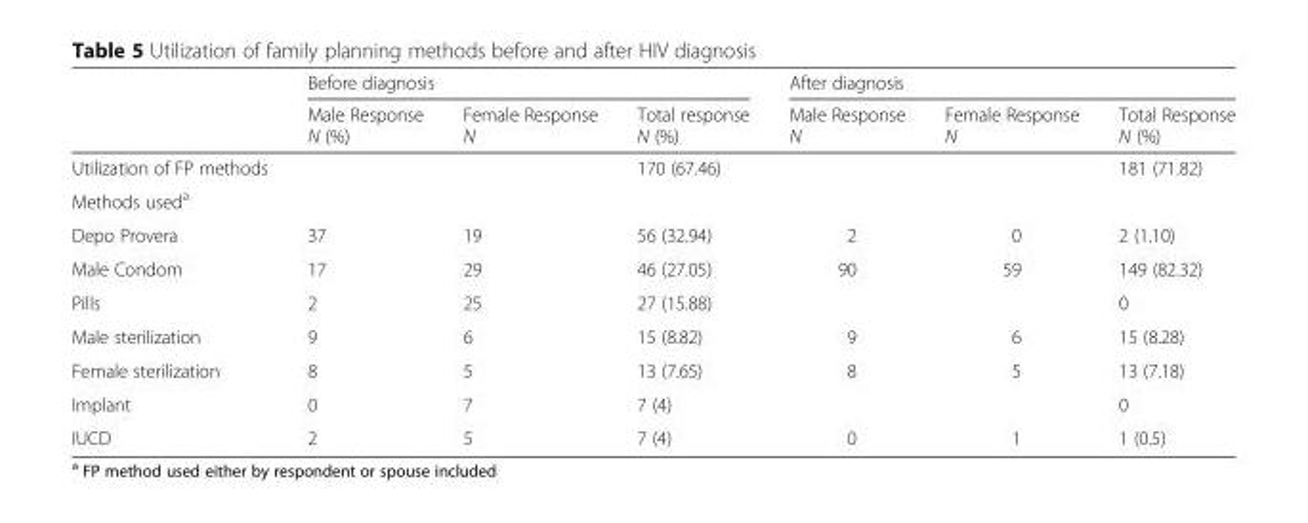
<table><thead><tr><td rowspan="2"></td><td colspan="3">Before diagnosis</td><td colspan="3">After diagnosis</td></tr><tr><td>Male Response N (%)</td><td>Female Response N</td><td>Total response N (%)</td><td>Male Response N</td><td>Female Response N</td><td>Total Response N (%)</td></tr></thead><tbody><tr><td>Utilization of FP methods</td><td></td><td></td><td>170 (67.46)</td><td></td><td></td><td>181 (71.82)</td></tr><tr><td colspan="7">Methods used<sup>a</sup></td></tr><tr><td>Depo Provera</td><td>37</td><td>19</td><td>56 (32.94)</td><td>2</td><td>0</td><td>2 (1.10)</td></tr><tr><td>Male Condom</td><td>17</td><td>29</td><td>46 (27.05)</td><td>90</td><td>59</td><td>149 (82.32)</td></tr><tr><td>Pills</td><td>2</td><td>25</td><td>27 (15.88)</td><td></td><td></td><td>0</td></tr><tr><td>Male sterilization</td><td>9</td><td>6</td><td>15 (8.82)</td><td>9</td><td>6</td><td>15 (8.28)</td></tr><tr><td>Female sterilization</td><td>8</td><td>5</td><td>13 (7.65)</td><td>8</td><td>5</td><td>13 (7.18)</td></tr><tr><td>Implant</td><td>0</td><td>7</td><td>7 (4)</td><td></td><td></td><td>0</td></tr><tr><td>IUCD</td><td>2</td><td>5</td><td>7 (4)</td><td>0</td><td>1</td><td>1 (0.5)</td></tr></tbody></table>